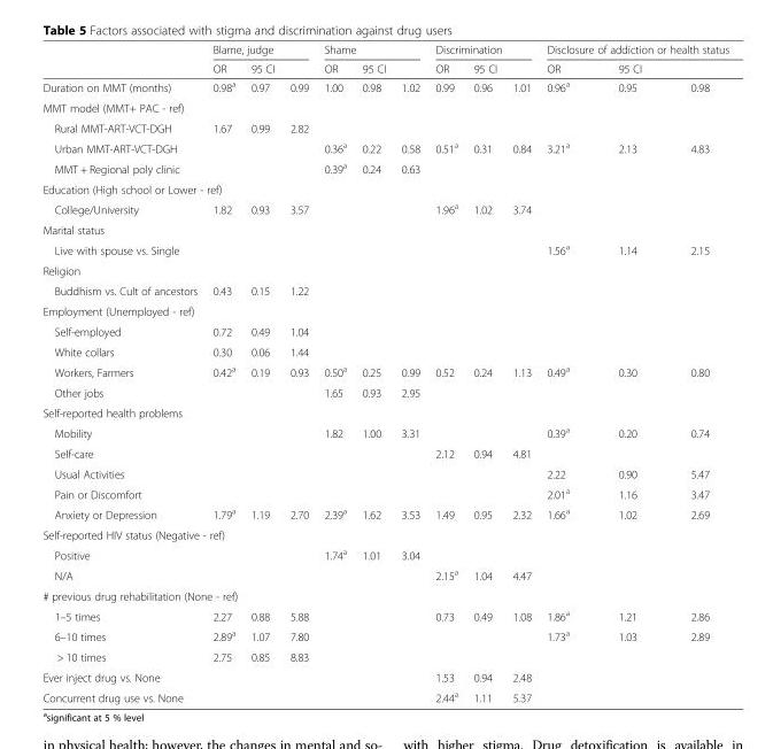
<table><thead><tr><td rowspan="2"></td><td colspan="3">Blame, judge</td><td colspan="3">Shame</td><td colspan="3">Discrimination</td><td colspan="3">Disclosure of addiction or health status</td></tr><tr><td>OR</td><td>95 CI</td><td></td><td>OR</td><td>95 CI</td><td></td><td>OR</td><td>95 CI</td><td></td><td>OR</td><td>95 CI</td><td></td></tr></thead><tbody><tr><td>Duration on MMT (months)</td><td>0.98<sup>a</sup></td><td>0.97</td><td>0.99</td><td>1.00</td><td>0.98</td><td>1.02</td><td>0.99</td><td>0.96</td><td>1.01</td><td>0.96<sup>a</sup></td><td>0.95</td><td>0.98</td></tr><tr><td colspan="13">MMT model (MMT+ PAC - ref)</td></tr><tr><td>Rural MMT-ART-VCT-DGH</td><td>1.67</td><td>0.99</td><td>2.82</td><td></td><td></td><td></td><td></td><td></td><td></td><td></td><td></td><td></td></tr><tr><td>Urban MMT-ART-VCT-DGH</td><td></td><td></td><td></td><td>0.36<sup>a</sup></td><td>0.22</td><td>0.58</td><td>0.51<sup>a</sup></td><td>0.31</td><td>0.84</td><td>3.21<sup>a</sup></td><td>2.13</td><td>4.83</td></tr><tr><td>MMT + Regional poly clinic</td><td></td><td></td><td></td><td>0.39<sup>a</sup></td><td>0.24</td><td>0.63</td><td></td><td></td><td></td><td></td><td></td><td></td></tr><tr><td colspan="13">Education (High school or Lower - ref)</td></tr><tr><td>College/University</td><td>1.82</td><td>0.93</td><td>3.57</td><td></td><td></td><td></td><td>1.96<sup>a</sup></td><td>1.02</td><td>3.74</td><td></td><td></td><td></td></tr><tr><td colspan="13">Marital status</td></tr><tr><td>Live with spouse vs. Single</td><td></td><td></td><td></td><td></td><td></td><td></td><td></td><td></td><td></td><td>1.56<sup>a</sup></td><td>1.14</td><td>2.15</td></tr><tr><td colspan="13">Religion</td></tr><tr><td>Buddhism vs. Cult of ancestors</td><td>0.43</td><td>0.15</td><td>1.22</td><td></td><td></td><td></td><td></td><td></td><td></td><td></td><td></td><td></td></tr><tr><td colspan="13">Employment (Unemployed - ref)</td></tr><tr><td>Self-employed</td><td>0.72</td><td>0.49</td><td>1.04</td><td></td><td></td><td></td><td></td><td></td><td></td><td></td><td></td><td></td></tr><tr><td>White collars</td><td>0.30</td><td>0.06</td><td>1.44</td><td></td><td></td><td></td><td></td><td></td><td></td><td></td><td></td><td></td></tr><tr><td>Workers, Farmers</td><td>0.42<sup>a</sup></td><td>0.19</td><td>0.93</td><td>0.50<sup>a</sup></td><td>0.25</td><td>0.99</td><td>0.52</td><td>0.24</td><td>1.13</td><td>0.49<sup>a</sup></td><td>0.30</td><td>0.80</td></tr><tr><td>Other jobs</td><td></td><td></td><td></td><td>1.65</td><td>0.93</td><td>2.95</td><td></td><td></td><td></td><td></td><td></td><td></td></tr><tr><td colspan="13">Self-reported health problems</td></tr><tr><td>Mobility</td><td></td><td></td><td></td><td>1.82</td><td>1.00</td><td>3.31</td><td></td><td></td><td></td><td>0.39<sup>a</sup></td><td>0.20</td><td>0.74</td></tr><tr><td>Self-care</td><td></td><td></td><td></td><td></td><td></td><td></td><td>2.12</td><td>0.94</td><td>4.81</td><td></td><td></td><td></td></tr><tr><td>Usual Activities</td><td></td><td></td><td></td><td></td><td></td><td></td><td></td><td></td><td></td><td>2.22</td><td>0.90</td><td>5.47</td></tr><tr><td>Pain or Discomfort</td><td></td><td></td><td></td><td></td><td></td><td></td><td></td><td></td><td></td><td>2.01<sup>a</sup></td><td>1.16</td><td>3.47</td></tr><tr><td>Anxiety or Depression</td><td>1.79<sup>a</sup></td><td>1.19</td><td>2.70</td><td>2.39<sup>a</sup></td><td>1.62</td><td>3.53</td><td>1.49</td><td>0.95</td><td>2.32</td><td>1.66<sup>a</sup></td><td>1.02</td><td>2.69</td></tr><tr><td colspan="13">Self-reported HIV status (Negative - ref)</td></tr><tr><td>Positive</td><td></td><td></td><td></td><td>1.74<sup>a</sup></td><td>1.01</td><td>3.04</td><td></td><td></td><td></td><td></td><td></td><td></td></tr><tr><td>N/A</td><td></td><td></td><td></td><td></td><td></td><td></td><td>2.15<sup>a</sup></td><td>1.04</td><td>4.47</td><td></td><td></td><td></td></tr><tr><td colspan="13"># previous drug rehabilitation (None - ref)</td></tr><tr><td>1–5 times</td><td>2.27</td><td>0.88</td><td>5.88</td><td></td><td></td><td></td><td>0.73</td><td>0.49</td><td>1.08</td><td>1.86<sup>a</sup></td><td>1.21</td><td>2.86</td></tr><tr><td>6–10 times</td><td>2.89<sup>a</sup></td><td>1.07</td><td>7.80</td><td></td><td></td><td></td><td></td><td></td><td></td><td>1.73<sup>a</sup></td><td>1.03</td><td>2.89</td></tr><tr><td>&gt; 10 times</td><td>2.75</td><td>0.85</td><td>8.83</td><td></td><td></td><td></td><td></td><td></td><td></td><td></td><td></td><td></td></tr><tr><td>Ever inject drug vs. None</td><td></td><td></td><td></td><td></td><td></td><td></td><td>1.53</td><td>0.94</td><td>2.48</td><td></td><td></td><td></td></tr><tr><td>Concurrent drug use vs. None</td><td></td><td></td><td></td><td></td><td></td><td></td><td>2.44<sup>a</sup></td><td>1.11</td><td>5.37</td><td></td><td></td><td></td></tr></tbody></table>